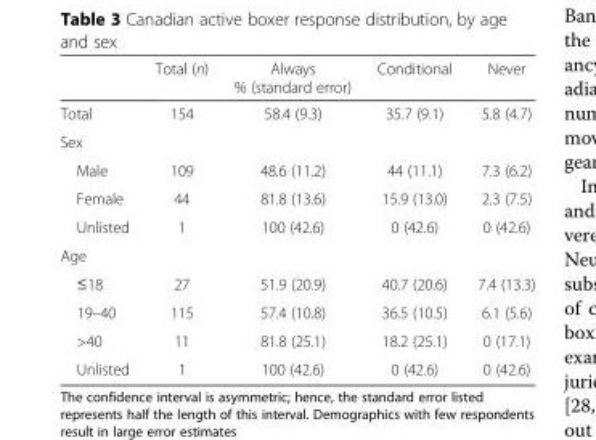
<table><thead><tr><td></td><td>Total (n)</td><td>Always % (standard error)</td><td>Conditional</td><td>Never</td></tr></thead><tbody><tr><td>Total</td><td>154</td><td>58.4 (9.3)</td><td>35.7 (9.1)</td><td>5.8 (4.7)</td></tr><tr><td colspan="5">Sex</td></tr><tr><td>Male</td><td>109</td><td>48.6 (11.2)</td><td>44 (11.1)</td><td>7.3 (6.2)</td></tr><tr><td>Female</td><td>44</td><td>81.8 (13.6)</td><td>15.9 (13.0)</td><td>2.3 (7.5)</td></tr><tr><td>Unlisted</td><td>1</td><td>100 (42.6)</td><td>0 (42.6)</td><td>0 (42.6)</td></tr><tr><td colspan="5">Age</td></tr><tr><td>≤18</td><td>27</td><td>51.9 (20.9)</td><td>40.7 (20.6)</td><td>7.4 (13.3)</td></tr><tr><td>19–40</td><td>115</td><td>57.4 (10.8)</td><td>36.5 (10.5)</td><td>6.1 (5.6)</td></tr><tr><td>&gt;40</td><td>11</td><td>81.8 (25.1)</td><td>18.2 (25.1)</td><td>0 (17.1)</td></tr><tr><td>Unlisted</td><td>1</td><td>100 (42.6)</td><td>0 (42.6)</td><td>0 (42.6)</td></tr></tbody></table>